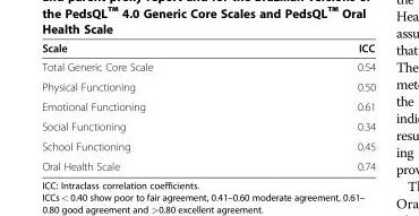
<table><thead><tr><td>Scale</td><td>ICC</td></tr></thead><tbody><tr><td>Total Generic Core Scale</td><td>0.54</td></tr><tr><td>Physical Functioning</td><td>0.50</td></tr><tr><td>Emotional Functioning</td><td>0.61</td></tr><tr><td>Social Functioning</td><td>0.34</td></tr><tr><td>School Functioning</td><td>0.45</td></tr><tr><td>Oral Health Scale</td><td>0.74</td></tr></tbody></table>